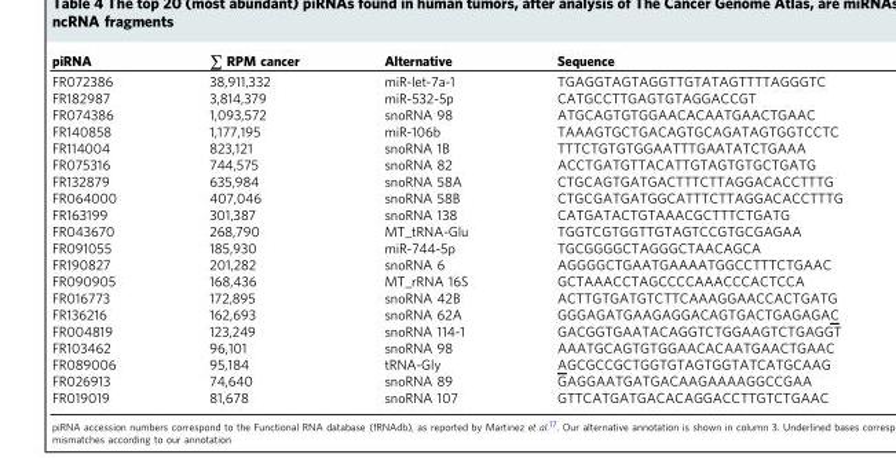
<table><thead><tr><td>piRNA</td><td>∑ RPM cancer</td><td>Alternative</td><td>Sequence</td></tr></thead><tbody><tr><td>FR072386</td><td>38,911,332</td><td>miR-let-7a-1</td><td>TGAGGTAGTAGGTTGTATAGTTTTAGGGTC</td></tr><tr><td>FR182987</td><td>3,814,379</td><td>miR-532-5p</td><td>CATGCCTTGAGTGTAGGACCGT</td></tr><tr><td>FR074386</td><td>1,093,572</td><td>snoRNA 98</td><td>ATGCAGTGTGGAACACAATGAACTGAAC</td></tr><tr><td>FR140858</td><td>1,177,195</td><td>miR-106b</td><td>TAAAGTGCTGACAGTGCAGATAGTGGTCCTC</td></tr><tr><td>FR114004</td><td>823,121</td><td>snoRNA 1B</td><td>TTTCTGTGTGGAATTTGAATATCTGAAA</td></tr><tr><td>FR075316</td><td>744,575</td><td>snoRNA 82</td><td>ACCTGATGTTACATTGTAGTGTGCTGATG</td></tr><tr><td>FR132879</td><td>635,984</td><td>snoRNA 58A</td><td>CTGCAGTGATGACTTTCTTAGGACACCTTTG</td></tr><tr><td>FR064000</td><td>407,046</td><td>snoRNA 58B</td><td>CTGCGATGATGGCATTTCTTAGGACACCTTTG</td></tr><tr><td>FR163199</td><td>301,387</td><td>snoRNA 138</td><td>CATGATACTGTAAACGCTTTCTGATG</td></tr><tr><td>FR043670</td><td>268,790</td><td>MT_tRNA-Glu</td><td>TGGTCGTGGTTGTAGTCCGTGCGAGAA</td></tr><tr><td>FR091055</td><td>185,930</td><td>miR-744-5p</td><td>TGCGGGGCTAGGGCTAACAGCA</td></tr><tr><td>FR190827</td><td>201,282</td><td>snoRNA 6</td><td>AGGGGCTGAATGAAAATGGCCTTTCTGAAC</td></tr><tr><td>FR090905</td><td>168,436</td><td>MT_rRNA 16S</td><td>GCTAAACCTAGCCCCAAACCCACTCCA</td></tr><tr><td>FR016773</td><td>172,895</td><td>snoRNA 42B</td><td>ACTTGTGATGTCTTCAAAGGAACCACTGATG</td></tr><tr><td>FR136216</td><td>162,693</td><td>snoRNA 62A</td><td>GGGAGATGAAGAGGACAGTGACTGAGAGAC</td></tr><tr><td>FR004819</td><td>123,249</td><td>snoRNA 114-1</td><td>GACGGTGAATACAGGTCTGGAAGTCTGAGGT</td></tr><tr><td>FR103462</td><td>96,101</td><td>snoRNA 98</td><td>AAATGCAGTGTGGAACACAATGAACTGAAC</td></tr><tr><td>FR089006</td><td>95,184</td><td>tRNA-Gly</td><td>AGCGCCGCTGGTGTAGTGGTATCATGCAAG</td></tr><tr><td>FR026913</td><td>74,640</td><td>snoRNA 89</td><td>GAGGAATGATGACAAGAAAAGGCCGAA</td></tr><tr><td>FR019019</td><td>81,678</td><td>snoRNA 107</td><td>GTTCATGATGACACAGGACCTTGTCTGAAC</td></tr></tbody></table>